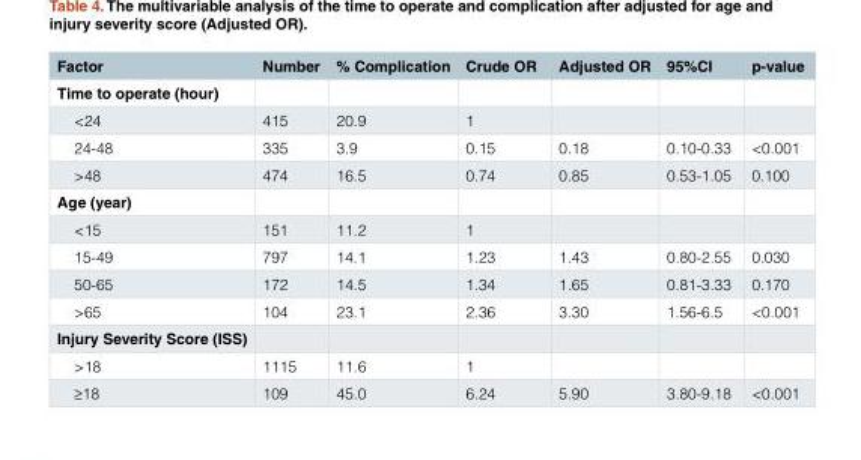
<table><thead><tr><td>Factor</td><td>Number</td><td>% Complication</td><td>Crude OR</td><td>Adjusted OR</td><td>95%CI</td><td>p-value</td></tr></thead><tbody><tr><td colspan="7">Time to operate (hour)</td></tr><tr><td>&lt;24</td><td>415</td><td>20.9</td><td>1</td><td></td><td></td><td></td></tr><tr><td>24-48</td><td>335</td><td>3.9</td><td>0.15</td><td>0.18</td><td>0.10-0.33</td><td>&lt;0.001</td></tr><tr><td>&gt;48</td><td>474</td><td>16.5</td><td>0.74</td><td>0.85</td><td>0.53-1.05</td><td>0.100</td></tr><tr><td colspan="7">Age (year)</td></tr><tr><td>&lt;15</td><td>151</td><td>11.2</td><td>1</td><td></td><td></td><td></td></tr><tr><td>15-49</td><td>797</td><td>14.1</td><td>1.23</td><td>1.43</td><td>0.80-2.55</td><td>0.030</td></tr><tr><td>50-65</td><td>172</td><td>14.5</td><td>1.34</td><td>1.65</td><td>0.81-3.33</td><td>0.170</td></tr><tr><td>&gt;65</td><td>104</td><td>23.1</td><td>2.36</td><td>3.30</td><td>1.56-6.5</td><td>&lt;0.001</td></tr><tr><td colspan="7">Injury Severity Score (ISS)</td></tr><tr><td>&gt;18</td><td>1115</td><td>11.6</td><td>1</td><td></td><td></td><td></td></tr><tr><td>≥18</td><td>109</td><td>45.0</td><td>6.24</td><td>5.90</td><td>3.80-9.18</td><td>&lt;0.001</td></tr></tbody></table>